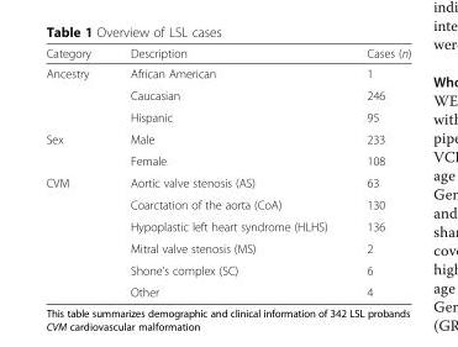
<table><thead><tr><td>Category</td><td>Description</td><td>Cases (n)</td></tr></thead><tbody><tr><td rowspan="3">Ancestry</td><td>African American</td><td>1</td></tr><tr><td>Caucasian</td><td>246</td></tr><tr><td>Hispanic</td><td>95</td></tr><tr><td rowspan="2">Sex</td><td>Male</td><td>233</td></tr><tr><td>Female</td><td>108</td></tr><tr><td rowspan="6">CVM</td><td>Aortic valve stenosis (AS)</td><td>63</td></tr><tr><td>Coarctation of the aorta (CoA)</td><td>130</td></tr><tr><td>Hypoplastic left heart syndrome (HLHS)</td><td>136</td></tr><tr><td>Mitral valve stenosis (MS)</td><td>2</td></tr><tr><td>Shone’s complex (SC)</td><td>6</td></tr><tr><td>Other</td><td>4</td></tr></tbody></table>